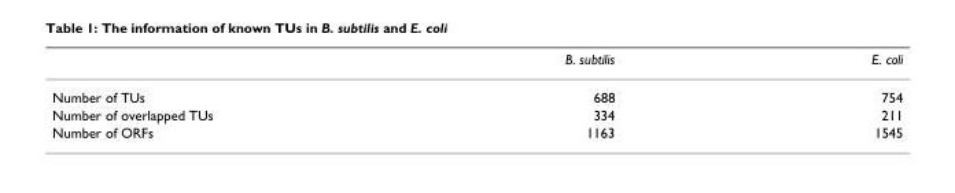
<table><thead><tr><td></td><td>B. subtilis</td><td>E. coli</td></tr></thead><tbody><tr><td>Number of TUs</td><td>688</td><td>754</td></tr><tr><td>Number of overlapped TUs</td><td>334</td><td>211</td></tr><tr><td>Number of ORFs</td><td>1163</td><td>1545</td></tr></tbody></table>